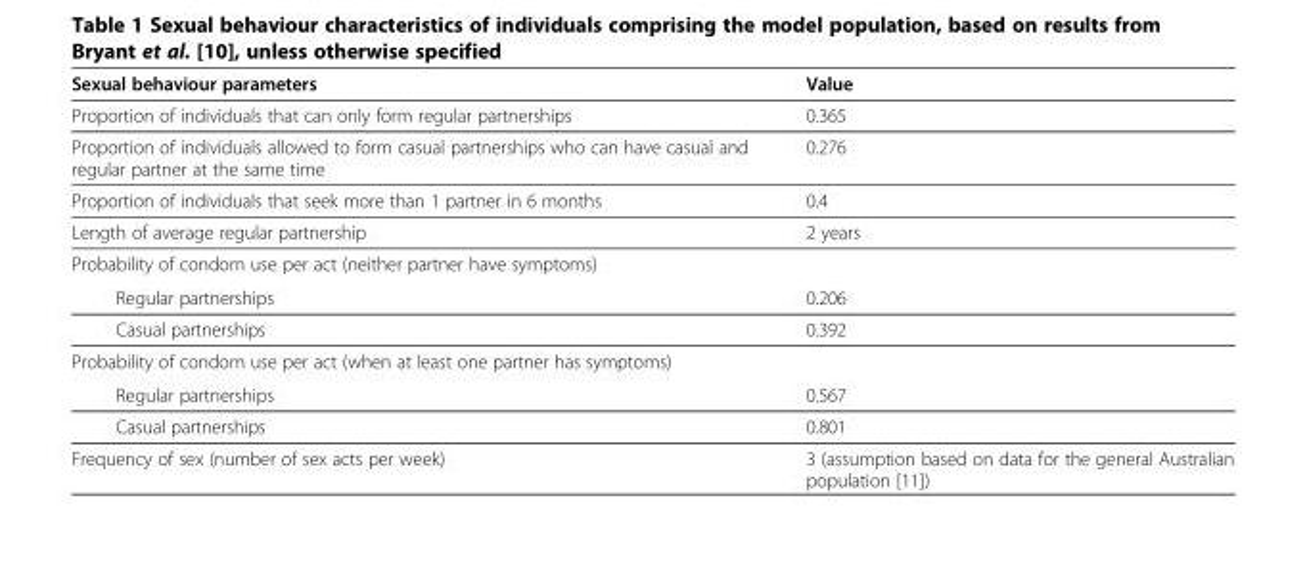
<table><thead><tr><td>Sexual behaviour parameters</td><td>Value</td></tr></thead><tbody><tr><td>Proportion of individuals that can only form regular partnerships</td><td>0.365</td></tr><tr><td>Proportion of individuals allowed to form casual partnerships who can have casual and regular partner at the same time</td><td>0.276</td></tr><tr><td>Proportion of individuals that seek more than 1 partner in 6 months</td><td>0.4</td></tr><tr><td>Length of average regular partnership</td><td>2 years</td></tr><tr><td colspan="2">Probability of condom use per act (neither partner have symptoms)</td></tr><tr><td>Regular partnerships</td><td>0.206</td></tr><tr><td>Casual partnerships</td><td>0.392</td></tr><tr><td colspan="2">Probability of condom use per act (when at least one partner has symptoms)</td></tr><tr><td>Regular partnerships</td><td>0.567</td></tr><tr><td>Casual partnerships</td><td>0.801</td></tr><tr><td>Frequency of sex (number of sex acts per week)</td><td>3 (assumption based on data for the general Australian population [11])</td></tr></tbody></table>